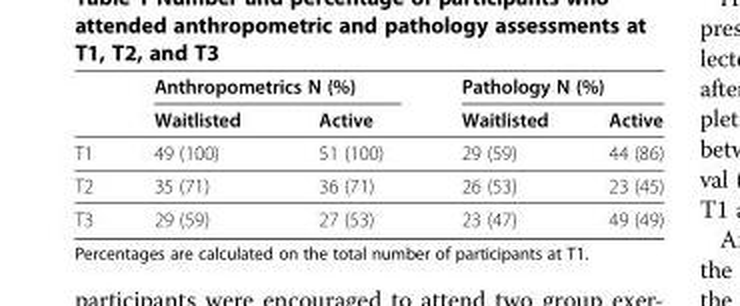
<table><thead><tr><td rowspan="2"></td><td colspan="2">Anthropometrics N (%)</td><td colspan="2">Pathology N (%)</td></tr><tr><td>Waitlisted</td><td>Active</td><td>Waitlisted</td><td>Active</td></tr></thead><tbody><tr><td>T1</td><td>49 (100)</td><td>51 (100)</td><td>29 (59)</td><td>44 (86)</td></tr><tr><td>T2</td><td>35 (71)</td><td>36 (71)</td><td>26 (53)</td><td>23 (45)</td></tr><tr><td>T3</td><td>29 (59)</td><td>27 (53)</td><td>23 (47)</td><td>49 (49)</td></tr></tbody></table>